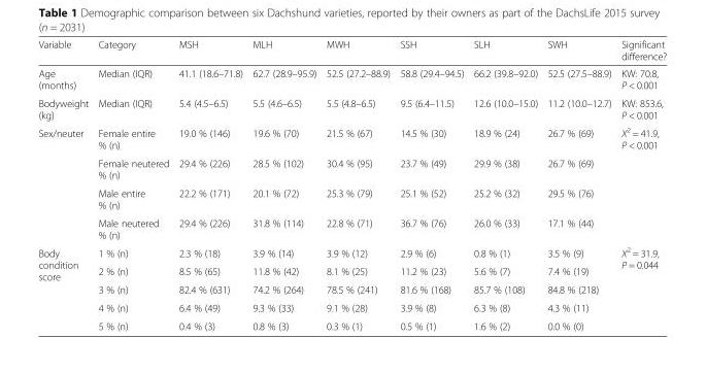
<table><thead><tr><td>Variable</td><td>Category</td><td>MSH</td><td>MLH</td><td>MWH</td><td>SSH</td><td>SLH</td><td>SWH</td><td>Significant difference?</td></tr></thead><tbody><tr><td>Age (months)</td><td>Median (IQR)</td><td>41.1 (18.6–71.8)</td><td>62.7 (28.9–95.9)</td><td>52.5 (27.2–88.9)</td><td>58.8 (29.4–94.5)</td><td>66.2 (39.8–92.0)</td><td>52.5 (27.5–88.9)</td><td>KW: 70.8, P &lt; 0.001</td></tr><tr><td>Bodyweight (kg)</td><td>Median (IQR)</td><td>5.4 (4.5–6.5)</td><td>5.5 (4.6–6.5)</td><td>5.5 (4.8–6.5)</td><td>9.5 (6.4–11.5)</td><td>12.6 (10.0–15.0)</td><td>11.2 (10.0–12.7)</td><td>KW: 853.6, P &lt; 0.001</td></tr><tr><td rowspan="4">Sex/neuter</td><td>Female entire % (n)</td><td>19.0 % (146)</td><td>19.6 % (70)</td><td>21.5 % (67)</td><td>14.5 % (30)</td><td>18.9 % (24)</td><td>26.7 % (69)</td><td rowspan="4">X<sup>2</sup> = 41.9, P &lt; 0.001</td></tr><tr><td>Female neutered % (n)</td><td>29.4 % (226)</td><td>28.5 % (102)</td><td>30.4 % (95)</td><td>23.7 % (49)</td><td>29.9 % (38)</td><td>26.7 % (69)</td></tr><tr><td>Male entire % (n)</td><td>22.2 % (171)</td><td>20.1 % (72)</td><td>25.3 % (79)</td><td>25.1 % (52)</td><td>25.2 % (32)</td><td>29.5 % (76)</td></tr><tr><td>Male neutered % (n)</td><td>29.4 % (226)</td><td>31.8 % (114)</td><td>22.8 % (71)</td><td>36.7 % (76)</td><td>26.0 % (33)</td><td>17.1 % (44)</td></tr><tr><td rowspan="5">Body condition score</td><td>1 % (n)</td><td>2.3 % (18)</td><td>3.9 % (14)</td><td>3.9 % (12)</td><td>2.9 % (6)</td><td>0.8 % (1)</td><td>3.5 % (9)</td><td rowspan="5">X<sup>2</sup> = 31.9, P = 0.044</td></tr><tr><td>2 % (n)</td><td>8.5 % (65)</td><td>11.8 % (42)</td><td>8.1 % (25)</td><td>11.2 % (23)</td><td>5.6 % (7)</td><td>7.4 % (19)</td></tr><tr><td>3 % (n)</td><td>82.4 % (631)</td><td>74.2 % (264)</td><td>78.5 % (241)</td><td>81.6 % (168)</td><td>85.7 % (108)</td><td>84.8 % (218)</td></tr><tr><td>4 % (n)</td><td>6.4 % (49)</td><td>9.3 % (33)</td><td>9.1 % (28)</td><td>3.9 % (8)</td><td>6.3 % (8)</td><td>4.3 % (11)</td></tr><tr><td>5 % (n)</td><td>0.4 % (3)</td><td>0.8 % (3)</td><td>0.3 % (1)</td><td>0.5 % (1)</td><td>1.6 % (2)</td><td>0.0 % (0)</td></tr></tbody></table>